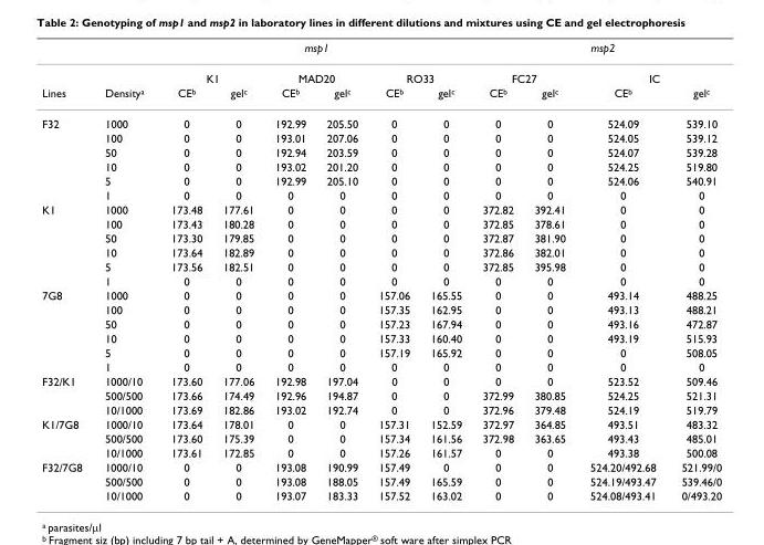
<table><thead><tr><td rowspan="3">Lines</td><td rowspan="3">Density<sup>a</sup></td><td colspan="6">msp1</td><td colspan="4">msp2</td></tr><tr><td colspan="2">K1</td><td colspan="2">MAD20</td><td colspan="2">RO33</td><td colspan="2">FC27</td><td colspan="2">IC</td></tr><tr><td>CE<sup>b</sup></td><td>gel<sup>c</sup></td><td>CE<sup>b</sup></td><td>gel<sup>c</sup></td><td>CE<sup>b</sup></td><td>gel<sup>c</sup></td><td>CE<sup>b</sup></td><td>gel<sup>c</sup></td><td>CE<sup>b</sup></td><td>gel<sup>c</sup></td></tr></thead><tbody><tr><td rowspan="6">F32</td><td>1000</td><td>0</td><td>0</td><td>192.99</td><td>205.50</td><td>0</td><td>0</td><td>0</td><td>0</td><td>524.09</td><td>539.10</td></tr><tr><td>100</td><td>0</td><td>0</td><td>193.01</td><td>207.06</td><td>0</td><td>0</td><td>0</td><td>0</td><td>524.05</td><td>539.12</td></tr><tr><td>50</td><td>0</td><td>0</td><td>192.94</td><td>203.59</td><td>0</td><td>0</td><td>0</td><td>0</td><td>524.07</td><td>539.28</td></tr><tr><td>10</td><td>0</td><td>0</td><td>193.02</td><td>201.20</td><td>0</td><td>0</td><td>0</td><td>0</td><td>524.25</td><td>519.80</td></tr><tr><td>5</td><td>0</td><td>0</td><td>192.99</td><td>205.10</td><td>0</td><td>0</td><td>0</td><td>0</td><td>524.06</td><td>540.91</td></tr><tr><td>1</td><td>0</td><td>0</td><td>0</td><td>0</td><td>0</td><td>0</td><td>0</td><td>0</td><td>0</td><td>0</td></tr><tr><td rowspan="6">K1</td><td>1000</td><td>173.48</td><td>177.61</td><td>0</td><td>0</td><td>0</td><td>0</td><td>372.82</td><td>392.41</td><td>0</td><td>0</td></tr><tr><td>100</td><td>173.43</td><td>180.28</td><td>0</td><td>0</td><td>0</td><td>0</td><td>372.85</td><td>378.61</td><td>0</td><td>0</td></tr><tr><td>50</td><td>173.30</td><td>179.85</td><td>0</td><td>0</td><td>0</td><td>0</td><td>372.87</td><td>381.90</td><td>0</td><td>0</td></tr><tr><td>10</td><td>173.64</td><td>182.89</td><td>0</td><td>0</td><td>0</td><td>0</td><td>372.86</td><td>382.01</td><td>0</td><td>0</td></tr><tr><td>5</td><td>173.56</td><td>182.51</td><td>0</td><td>0</td><td>0</td><td>0</td><td>372.85</td><td>395.98</td><td>0</td><td>0</td></tr><tr><td>1</td><td>0</td><td>0</td><td>0</td><td>0</td><td>0</td><td>0</td><td>0</td><td>0</td><td>0</td><td>0</td></tr><tr><td rowspan="6">7G8</td><td>1000</td><td>0</td><td>0</td><td>0</td><td>0</td><td>157.06</td><td>165.55</td><td>0</td><td>0</td><td>493.14</td><td>488.25</td></tr><tr><td>100</td><td>0</td><td>0</td><td>0</td><td>0</td><td>157.35</td><td>162.95</td><td>0</td><td>0</td><td>493.13</td><td>488.21</td></tr><tr><td>50</td><td>0</td><td>0</td><td>0</td><td>0</td><td>157.23</td><td>167.94</td><td>0</td><td>0</td><td>493.16</td><td>472.87</td></tr><tr><td>10</td><td>0</td><td>0</td><td>0</td><td>0</td><td>157.33</td><td>160.40</td><td>0</td><td>0</td><td>493.19</td><td>515.93</td></tr><tr><td>5</td><td>0</td><td>0</td><td>0</td><td>0</td><td>157.19</td><td>165.92</td><td>0</td><td>0</td><td>0</td><td>508.05</td></tr><tr><td>1</td><td>0</td><td>0</td><td>0</td><td>0</td><td>0</td><td>0</td><td>0</td><td>0</td><td>0</td><td>0</td></tr><tr><td rowspan="3">F32/K1</td><td>1000/10</td><td>173.60</td><td>177.06</td><td>192.98</td><td>197.04</td><td>0</td><td>0</td><td>0</td><td>0</td><td>523.52</td><td>509.46</td></tr><tr><td>500/500</td><td>173.66</td><td>174.49</td><td>192.96</td><td>194.87</td><td>0</td><td>0</td><td>372.99</td><td>380.85</td><td>524.25</td><td>521.31</td></tr><tr><td>10/1000</td><td>173.69</td><td>182.86</td><td>193.02</td><td>192.74</td><td>0</td><td>0</td><td>372.96</td><td>379.48</td><td>524.19</td><td>519.79</td></tr><tr><td rowspan="3">K1/7G8</td><td>1000/10</td><td>173.64</td><td>178.01</td><td>0</td><td>0</td><td>157.31</td><td>152.59</td><td>372.97</td><td>364.85</td><td>493.51</td><td>483.32</td></tr><tr><td>500/500</td><td>173.60</td><td>175.39</td><td>0</td><td>0</td><td>157.34</td><td>161.56</td><td>372.98</td><td>363.65</td><td>493.43</td><td>485.01</td></tr><tr><td>10/1000</td><td>173.61</td><td>172.85</td><td>0</td><td>0</td><td>157.26</td><td>161.57</td><td>0</td><td>0</td><td>493.38</td><td>500.08</td></tr><tr><td rowspan="3">F32/7G8</td><td>1000/10</td><td>0</td><td>0</td><td>193.08</td><td>190.99</td><td>157.49</td><td>0</td><td>0</td><td>0</td><td>524.20/492.68</td><td>521.99/0</td></tr><tr><td>500/500</td><td>0</td><td>0</td><td>193.08</td><td>188.05</td><td>157.49</td><td>165.59</td><td>0</td><td>0</td><td>524.19/493.47</td><td>539.46/0</td></tr><tr><td>10/1000</td><td>0</td><td>0</td><td>193.07</td><td>183.33</td><td>157.52</td><td>163.02</td><td>0</td><td>0</td><td>524.08/493.41</td><td>0/493.20</td></tr></tbody></table>